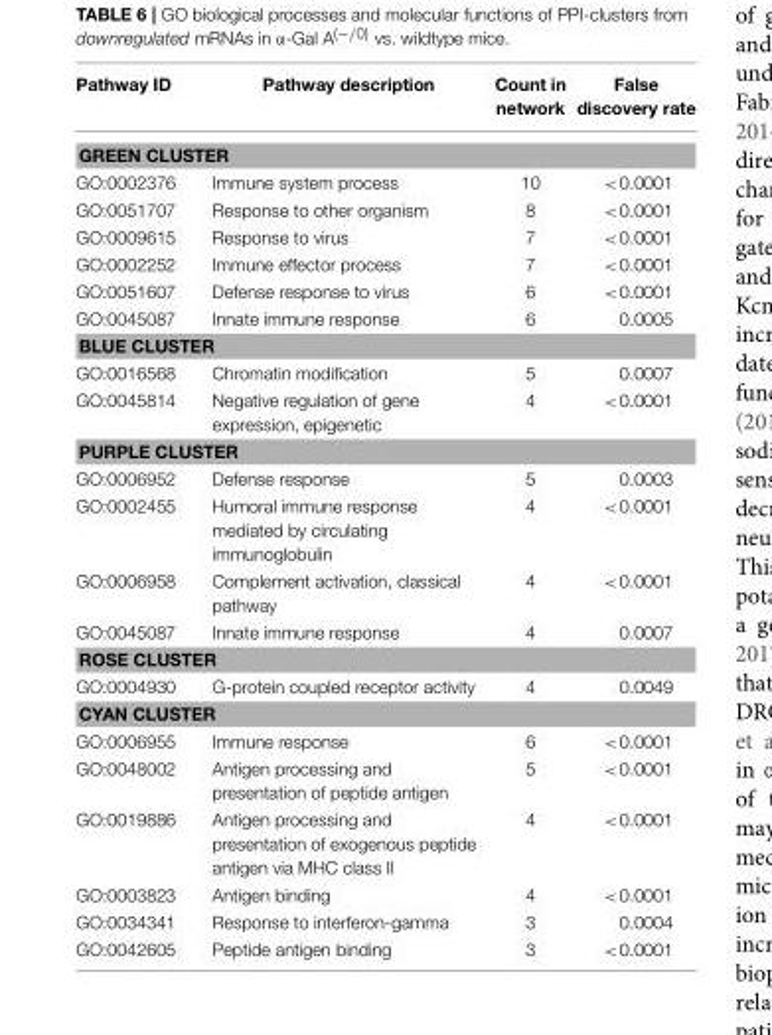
<table><thead><tr><td>Pathway ID</td><td>Pathway description</td><td>Count in network</td><td>False discovery rate</td></tr></thead><tbody><tr><td colspan="4">GREEN CLUSTER</td></tr><tr><td>GO:0002376</td><td>Immune system process</td><td>10</td><td>&lt;0.0001</td></tr><tr><td>GO:0051707</td><td>Response to other organism</td><td>8</td><td>&lt;0.0001</td></tr><tr><td>GO:0009615</td><td>Response to virus</td><td>7</td><td>&lt;0.0001</td></tr><tr><td>GO:0002252</td><td>Immune effector process</td><td>7</td><td>&lt;0.0001</td></tr><tr><td>GO:0051607</td><td>Defense response to virus</td><td>6</td><td>&lt;0.0001</td></tr><tr><td>GO:0045087</td><td>Innate immune response</td><td>6</td><td>0.0005</td></tr><tr><td colspan="4">BLUE CLUSTER</td></tr><tr><td>GO:0016568</td><td>Chromatin modification</td><td>5</td><td>0.0007</td></tr><tr><td>GO:0045814</td><td>Negative regulation of gene expression, epigenetic</td><td>4</td><td>&lt;0.0001</td></tr><tr><td colspan="4">PURPLE CLUSTER</td></tr><tr><td>GO:0006952</td><td>Defense response</td><td>5</td><td>0.0003</td></tr><tr><td>GO:0002455</td><td>Humoral immune response mediated by circulating immunoglobulin</td><td>4</td><td>&lt;0.0001</td></tr><tr><td>GO:0006958</td><td>Complement activation, classical pathway</td><td>4</td><td>&lt;0.0001</td></tr><tr><td>GO:0045087</td><td>Innate immune response</td><td>4</td><td>0.0007</td></tr><tr><td colspan="4">ROSE CLUSTER</td></tr><tr><td>GO:0004930</td><td>G-protein coupled receptor activity</td><td>4</td><td>0.0049</td></tr><tr><td colspan="4">CYAN CLUSTER</td></tr><tr><td>GO:0006955</td><td>Immune response</td><td>6</td><td>&lt;0.0001</td></tr><tr><td>GO:0048002</td><td>Antigen processing and presentation of peptide antigen</td><td>5</td><td>&lt;0.0001</td></tr><tr><td>GO:0019886</td><td>Antigen processing and presentation of exogenous peptide antigen via MHC class II</td><td>4</td><td>&lt;0.0001</td></tr><tr><td>GO:0003823</td><td>Antigen binding</td><td>4</td><td>&lt;0.0001</td></tr><tr><td>GO:0034341</td><td>Response to interferon-gamma</td><td>3</td><td>0.0004</td></tr><tr><td>GO:0042605</td><td>Peptide antigen binding</td><td>3</td><td>&lt;0.0001</td></tr></tbody></table>